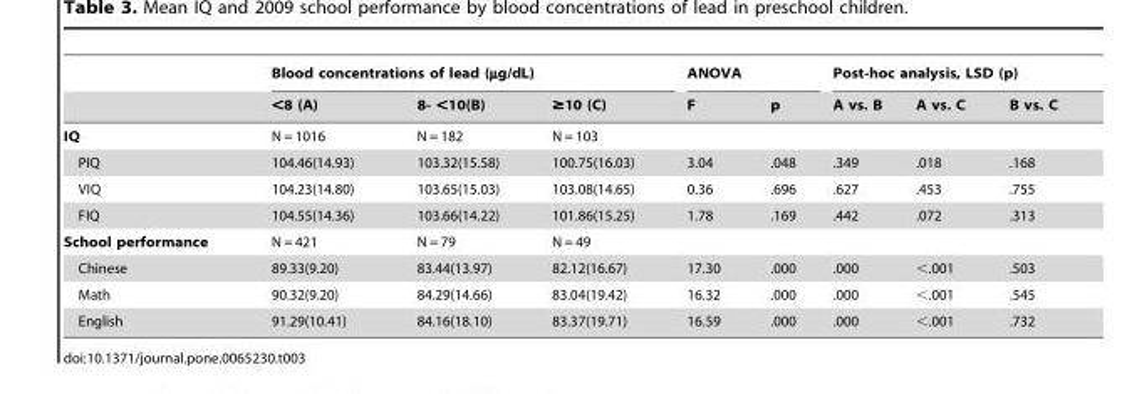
<table><thead><tr><td rowspan="2"></td><td colspan="3">Blood concentrations of lead (µg/dL)</td><td colspan="2">ANOVA</td><td colspan="3">Post-hoc analysis, LSD (p)</td></tr><tr><td>&lt;8 (A)</td><td>8- &lt;10(B)</td><td>≥10 (C)</td><td>F</td><td>p</td><td>A vs. B</td><td>A vs. C</td><td>B vs. C</td></tr></thead><tbody><tr><td>IQ</td><td>N = 1016</td><td>N = 182</td><td>N = 103</td><td></td><td></td><td></td><td></td><td></td></tr><tr><td>PIQ</td><td>104.46(14.93)</td><td>103.32(15.58)</td><td>100.75(16.03)</td><td>3.04</td><td>.048</td><td>.349</td><td>.018</td><td>.168</td></tr><tr><td>VIQ</td><td>104.23(14.80)</td><td>103.65(15.03)</td><td>103.08(14.65)</td><td>0.36</td><td>.696</td><td>.627</td><td>.453</td><td>.755</td></tr><tr><td>FIQ</td><td>104.55(14.36)</td><td>103.66(14.22)</td><td>101.86(15.25)</td><td>1.78</td><td>.169</td><td>.442</td><td>.072</td><td>.313</td></tr><tr><td>School performance</td><td>N = 421</td><td>N = 79</td><td>N = 49</td><td></td><td></td><td></td><td></td><td></td></tr><tr><td>Chinese</td><td>89.33(9.20)</td><td>83.44(13.97)</td><td>82.12(16.67)</td><td>17.30</td><td>.000</td><td>.000</td><td>&lt;.001</td><td>.503</td></tr><tr><td>Math</td><td>90.32(9.20)</td><td>84.29(14.66)</td><td>83.04(19.42)</td><td>16.32</td><td>.000</td><td>.000</td><td>&lt;.001</td><td>.545</td></tr><tr><td>English</td><td>91.29(10.41)</td><td>84.16(18.10)</td><td>83.37(19.71)</td><td>16.59</td><td>.000</td><td>.000</td><td>&lt;.001</td><td>.732</td></tr></tbody></table>